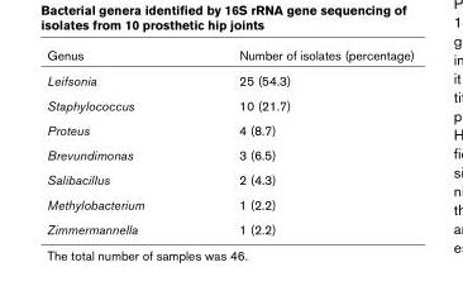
<table><thead><tr><td>Genus</td><td>Number of isolates (percentage)</td></tr></thead><tbody><tr><td>Leifsonia</td><td>25 (54.3)</td></tr><tr><td>Staphylococcus</td><td>10 (21.7)</td></tr><tr><td>Proteus</td><td>4 (8.7)</td></tr><tr><td>Brevundimonas</td><td>3 (6.5)</td></tr><tr><td>Salibacillus</td><td>2 (4.3)</td></tr><tr><td>Methylobacterium</td><td>1 (2.2)</td></tr><tr><td>Zimmermannella</td><td>1 (2.2)</td></tr></tbody></table>